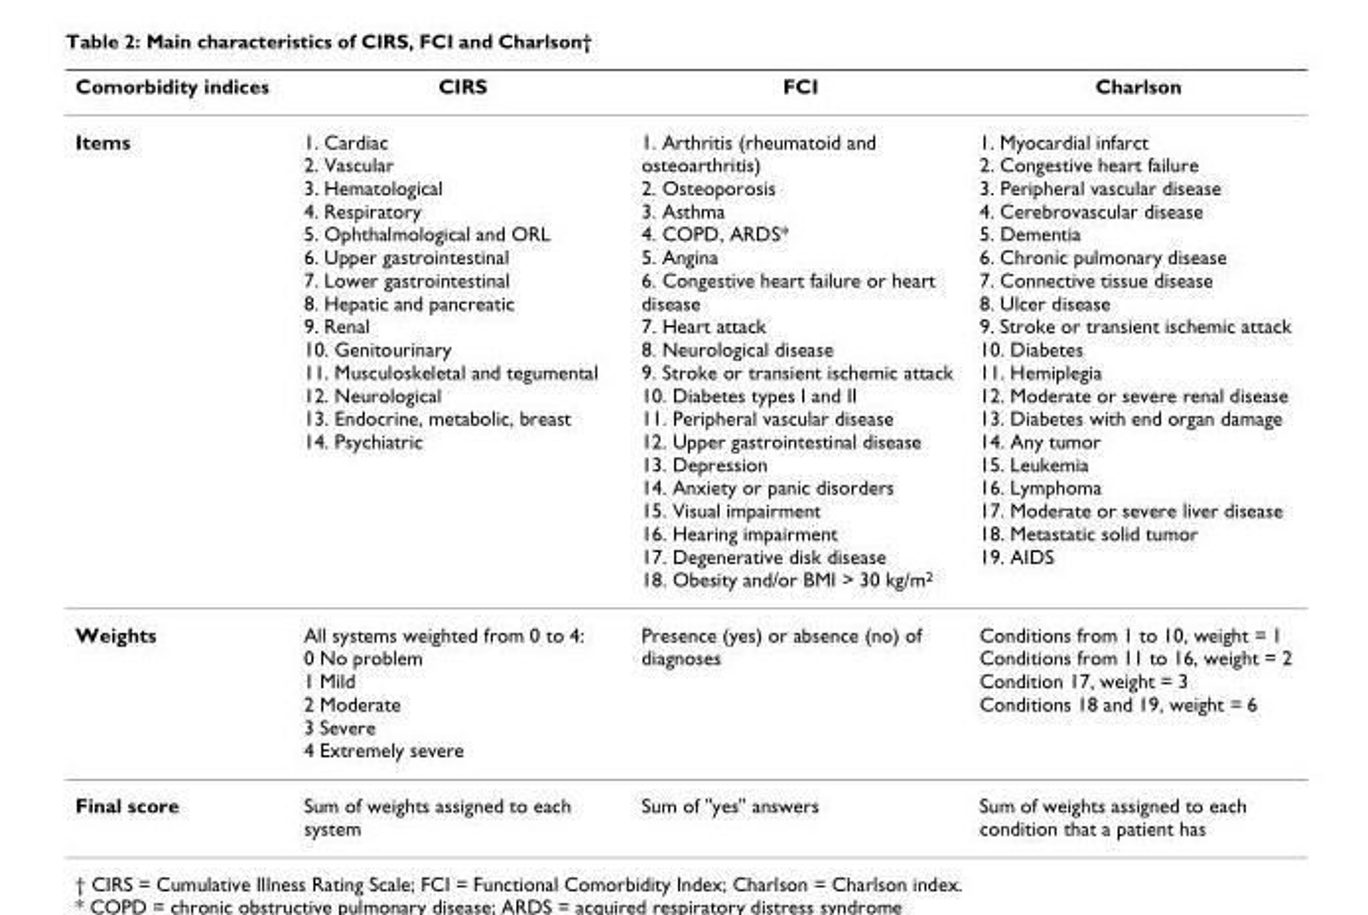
<table><thead><tr><td>Comorbidity indices</td><td>CIRS</td><td>FCI</td><td>Charlson</td></tr></thead><tbody><tr><td>Items</td><td>1. Cardiac 2. Vascular 3. Hematological 4. Respiratory 5. Ophthalmological and ORL 6. Upper gastrointestinal 7. Lower gastrointestinal 8. Hepatic and pancreatic 9. Renal 10. Genitourinary 11. Musculoskeletal and tegumental 12. Neurological 13. Endocrine, metabolic, breast 14. Psychiatric</td><td>1. Arthritis (rheumatoid and osteoarthritis) 2. Osteoporosis 3. Asthma 4. COPD, ARDS* 5. Angina 6. Congestive heart failure or heart disease 7. Heart attack 8. Neurological disease 9. Stroke or transient ischemic attack 10. Diabetes types I and II 11. Peripheral vascular disease 12. Upper gastrointestinal disease 13. Depression 14. Anxiety or panic disorders 15. Visual impairment 16. Hearing impairment 17. Degenerative disk disease 18. Obesity and/or BMI &gt; 30 kg/m<sup>2</sup></td><td>1. Myocardial infarct 2. Congestive heart failure 3. Peripheral vascular disease 4. Cerebrovascular disease 5. Dementia 6. Chronic pulmonary disease 7. Connective tissue disease 8. Ulcer disease 9. Stroke or transient ischemic attack 10. Diabetes 11. Hemiplegia 12. Moderate or severe renal disease 13. Diabetes with end organ damage 14. Any tumor 15. Leukemia 16. Lymphoma 17. Moderate or severe liver disease 18. Metastatic solid tumor 19. AIDS</td></tr><tr><td>Weights</td><td>All systems weighted from 0 to 4: 0 No problem 1 Mild 2 Moderate 3 Severe 4 Extremely severe</td><td>Presence (yes) or absence (no) of diagnoses</td><td>Conditions from 1 to 10, weight = 1 Conditions from 11 to 16, weight = 2 Condition 17, weight = 3 Conditions 18 and 19, weight = 6</td></tr><tr><td>Final score</td><td>Sum of weights assigned to each system</td><td>Sum of &quot;yes&quot; answers</td><td>Sum of weights assigned to each condition that a patient has</td></tr></tbody></table>